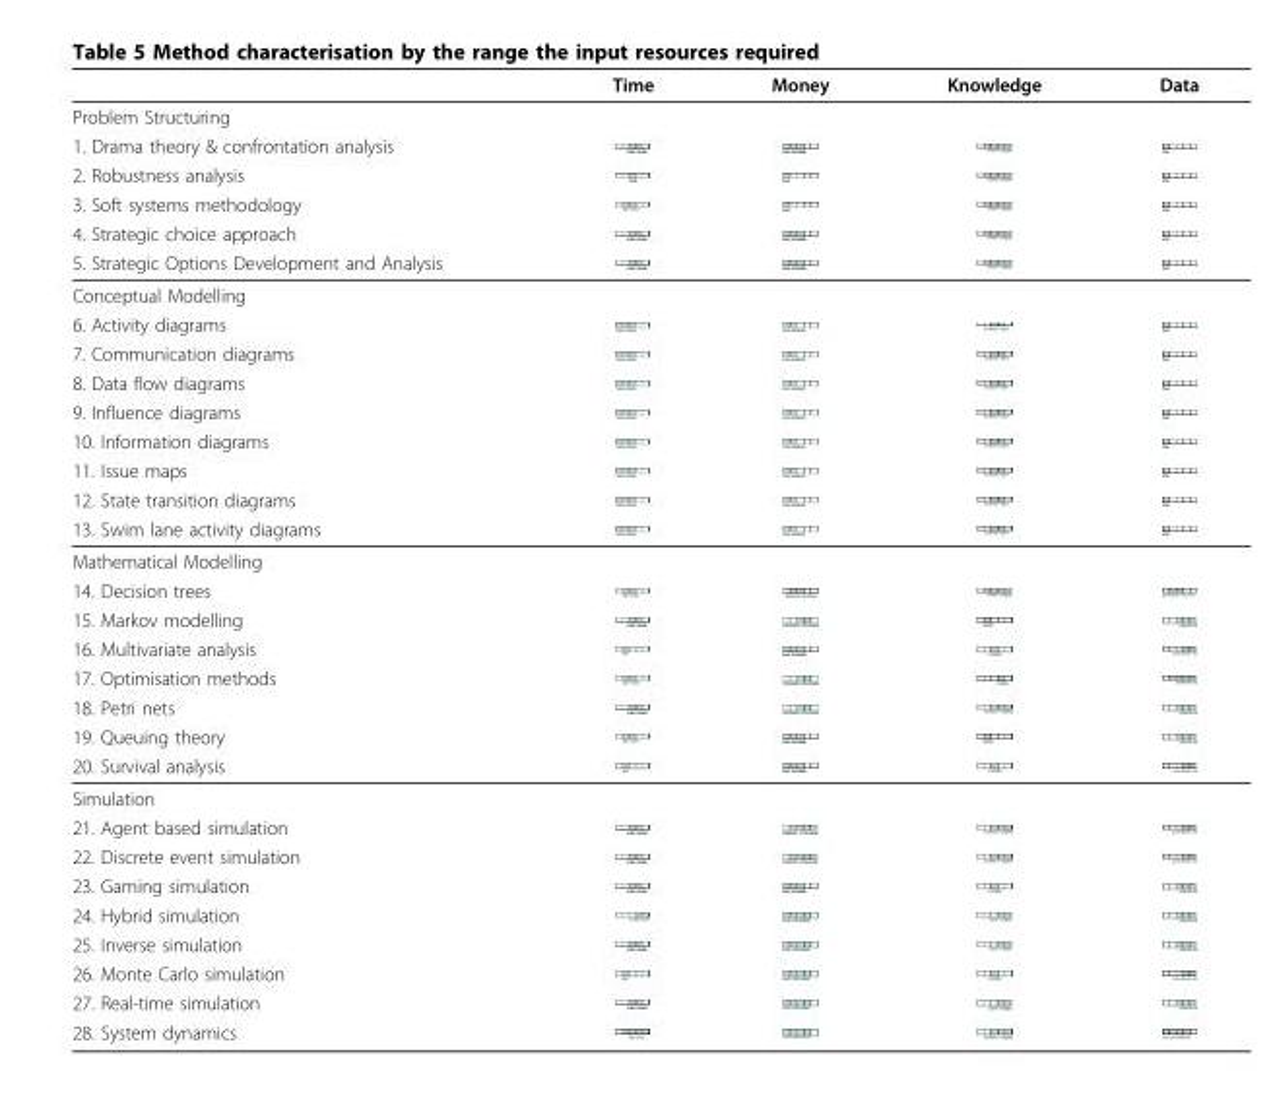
<table><thead><tr><td></td><td>Time</td><td>Money</td><td>Knowledge</td><td>Data</td></tr></thead><tbody><tr><td colspan="5">Problem Structuring</td></tr><tr><td colspan="5">1. Drama theory &amp; confrontation analysis</td></tr><tr><td colspan="5">2. Robustness analysis</td></tr><tr><td colspan="5">3. Soft systems methodology</td></tr><tr><td colspan="5">4. Strategic choice approach</td></tr><tr><td colspan="5">5. Strategic Options Development and Analysis</td></tr><tr><td colspan="5">Conceptual Modelling</td></tr><tr><td colspan="5">6. Activity diagrams</td></tr><tr><td colspan="5">7. Communication diagrams</td></tr><tr><td colspan="5">8. Data flow diagrams</td></tr><tr><td colspan="5">9. Influence diagrams</td></tr><tr><td colspan="5">10. Information diagrams</td></tr><tr><td colspan="5">11. Issue maps</td></tr><tr><td colspan="5">12. State transition diagrams</td></tr><tr><td colspan="5">13. Swim lane activity diagrams</td></tr><tr><td colspan="5">Mathematical Modelling</td></tr><tr><td colspan="5">14. Decision trees</td></tr><tr><td colspan="5">15. Markov modelling</td></tr><tr><td colspan="5">16. Multivariate analysis</td></tr><tr><td colspan="5">17. Optimisation methods</td></tr><tr><td colspan="5">18. Petri nets</td></tr><tr><td colspan="5">19. Queuing theory</td></tr><tr><td colspan="5">20. Survival analysis</td></tr><tr><td colspan="5">Simulation</td></tr><tr><td colspan="5">21. Agent based simulation</td></tr><tr><td colspan="5">22. Discrete event simulation</td></tr><tr><td colspan="5">23. Gaming simulation</td></tr><tr><td colspan="5">24. Hybrid simulation</td></tr><tr><td colspan="5">25. Inverse simulation</td></tr><tr><td colspan="5">26. Monte Carlo simulation</td></tr><tr><td colspan="5">27. Real-time simulation</td></tr><tr><td>28. System dynamics</td><td></td><td></td><td></td><td></td></tr></tbody></table>